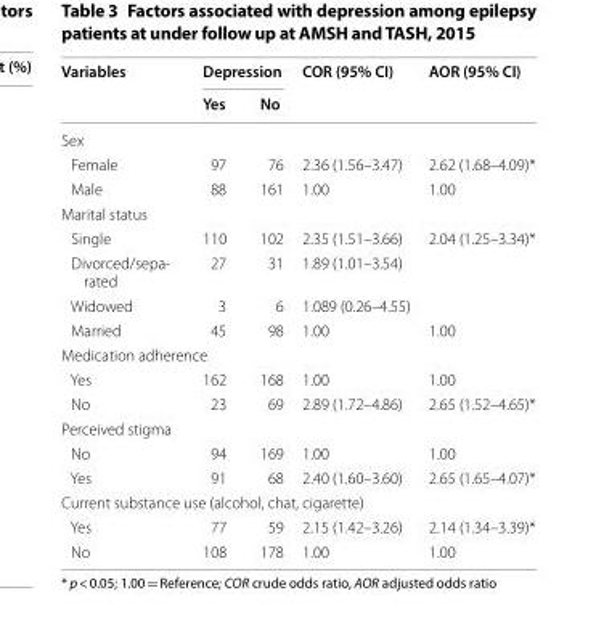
<table><thead><tr><td rowspan="2">Variables</td><td colspan="2">Depression</td><td rowspan="2">COR (95% CI)</td><td rowspan="2">AOR (95% CI)</td></tr><tr><td>Yes</td><td>No</td></tr></thead><tbody><tr><td colspan="5">Sex</td></tr><tr><td>Female</td><td>97</td><td>76</td><td>2.36 (1.56–3.47)</td><td>2.62 (1.68–4.09)*</td></tr><tr><td>Male</td><td>88</td><td>161</td><td>1.00</td><td>1.00</td></tr><tr><td colspan="5">Marital status</td></tr><tr><td>Single</td><td>110</td><td>102</td><td>2.35 (1.51–3.66)</td><td>2.04 (1.25–3.34)*</td></tr><tr><td>Divorced/sepa- rated</td><td>27</td><td>31</td><td>1.89 (1.01–3.54)</td><td></td></tr><tr><td>Widowed</td><td>3</td><td>6</td><td>1.089 (0.26–4.55)</td><td></td></tr><tr><td>Married</td><td>45</td><td>98</td><td>1.00</td><td>1.00</td></tr><tr><td colspan="5">Medication adherence</td></tr><tr><td>Yes</td><td>162</td><td>168</td><td>1.00</td><td>1.00</td></tr><tr><td>No</td><td>23</td><td>69</td><td>2.89 (1.72–4.86)</td><td>2.65 (1.52–4.65)*</td></tr><tr><td colspan="5">Perceived stigma</td></tr><tr><td>No</td><td>94</td><td>169</td><td>1.00</td><td>1.00</td></tr><tr><td>Yes</td><td>91</td><td>68</td><td>2.40 (1.60–3.60)</td><td>2.65 (1.65–4.07)*</td></tr><tr><td colspan="5">Current substance use (alcohol, chat, cigarette)</td></tr><tr><td>Yes</td><td>77</td><td>59</td><td>2.15 (1.42–3.26)</td><td>2.14 (1.34–3.39)*</td></tr><tr><td>No</td><td>108</td><td>178</td><td>1.00</td><td>1.00</td></tr></tbody></table>